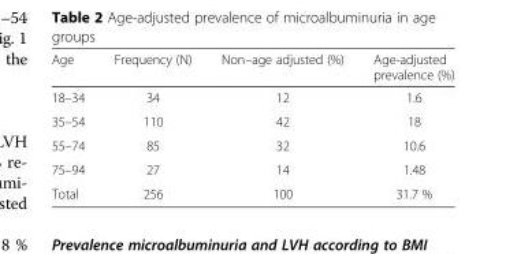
<table><thead><tr><td>Age</td><td>Frequency (N)</td><td>Non–age adjusted (%)</td><td>Age-adjusted prevalence (%)</td></tr></thead><tbody><tr><td>18–34</td><td>34</td><td>12</td><td>1.6</td></tr><tr><td>35–54</td><td>110</td><td>42</td><td>18</td></tr><tr><td>55–74</td><td>85</td><td>32</td><td>10.6</td></tr><tr><td>75–94</td><td>27</td><td>14</td><td>1.48</td></tr><tr><td>Total</td><td>256</td><td>100</td><td>31.7 %</td></tr></tbody></table>